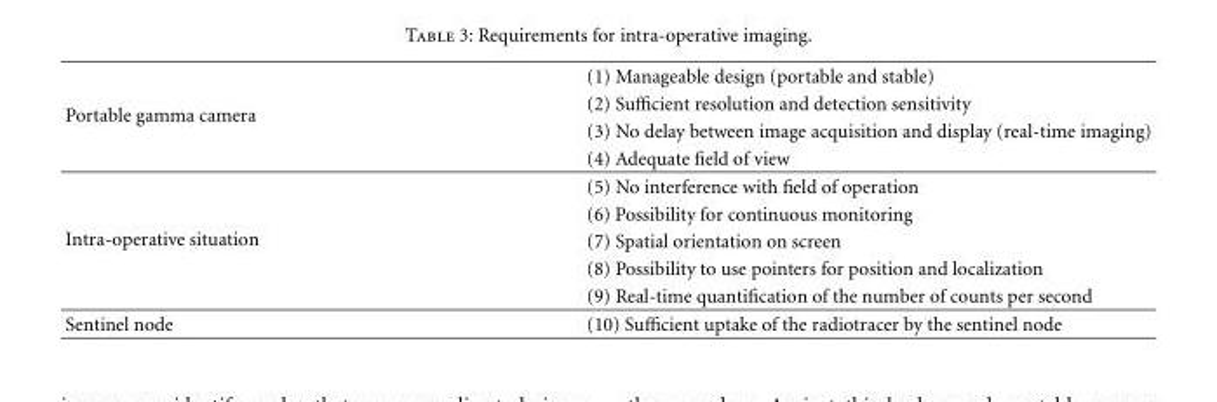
<table><tbody><tr><td rowspan="4">Portable gamma camera</td><td>(1) Manageable design (portable and stable)</td></tr><tr><td>(2) Sufficient resolution and detection sensitivity</td></tr><tr><td>(3) No delay between image acquisition and display (real-time imaging)</td></tr><tr><td>(4) Adequate field of view</td></tr><tr><td rowspan="5">Intra-operative situation</td><td>(5) No interference with field of operation</td></tr><tr><td>(6) Possibility for continuous monitoring</td></tr><tr><td>(7) Spatial orientation on screen</td></tr><tr><td>(8) Possibility to use pointers for position and localization</td></tr><tr><td>(9) Real-time quantification of the number of counts per second</td></tr><tr><td>Sentinel node</td><td>(10) Sufficient uptake of the radiotracer by the sentinel node</td></tr></tbody></table>